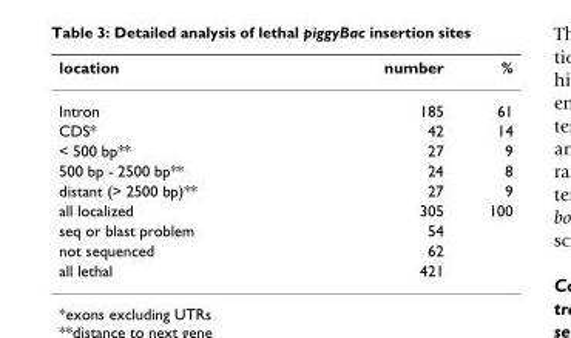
<table><thead><tr><td>location</td><td>number</td><td>%</td></tr></thead><tbody><tr><td>Intron</td><td>185</td><td>61</td></tr><tr><td>CDS*</td><td>42</td><td>14</td></tr><tr><td>&lt; 500 bp**</td><td>27</td><td>9</td></tr><tr><td>500 bp - 2500 bp**</td><td>24</td><td>8</td></tr><tr><td>distant (&gt; 2500 bp)**</td><td>27</td><td>9</td></tr><tr><td>all localized</td><td>305</td><td>100</td></tr><tr><td>seq or blast problem</td><td>54</td><td></td></tr><tr><td>not sequenced</td><td>62</td><td></td></tr><tr><td>all lethal</td><td>421</td><td></td></tr></tbody></table>